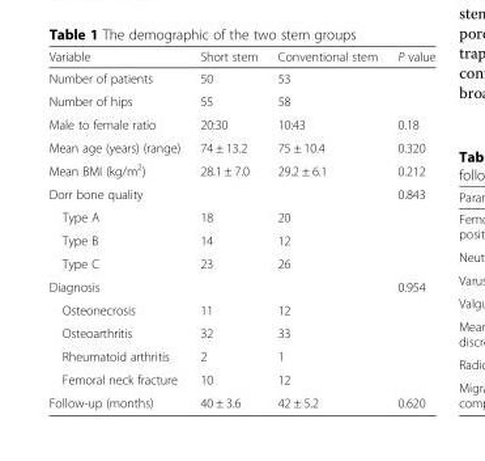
<table><thead><tr><td>Variable</td><td>Short stem</td><td>Conventional stem</td><td>P value</td></tr></thead><tbody><tr><td>Number of patients</td><td>50</td><td>53</td><td></td></tr><tr><td>Number of hips</td><td>55</td><td>58</td><td></td></tr><tr><td>Male to female ratio</td><td>20:30</td><td>10:43</td><td>0.18</td></tr><tr><td>Mean age (years) (range)</td><td>74 ± 13.2</td><td>75 ± 10.4</td><td>0.320</td></tr><tr><td>Mean BMI (kg/m<sup>2</sup>)</td><td>28.1 ± 7.0</td><td>29.2 ± 6.1</td><td>0.212</td></tr><tr><td>Dorr bone quality</td><td></td><td></td><td>0.843</td></tr><tr><td>Type A</td><td>18</td><td>20</td><td></td></tr><tr><td>Type B</td><td>14</td><td>12</td><td></td></tr><tr><td>Type C</td><td>23</td><td>26</td><td></td></tr><tr><td>Diagnosis</td><td></td><td></td><td>0.954</td></tr><tr><td>Osteonecrosis</td><td>11</td><td>12</td><td></td></tr><tr><td>Osteoarthritis</td><td>32</td><td>33</td><td></td></tr><tr><td>Rheumatoid arthritis</td><td>2</td><td>1</td><td></td></tr><tr><td>Femoral neck fracture</td><td>10</td><td>12</td><td></td></tr><tr><td>Follow-up (months)</td><td>40 ± 3.6</td><td>42 ± 5.2</td><td>0.620</td></tr></tbody></table>